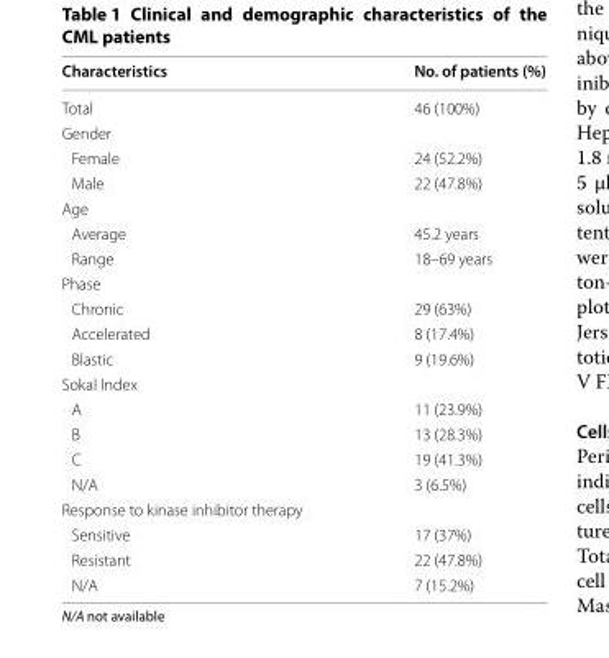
<table><thead><tr><td>Characteristics</td><td>No. of patients (%)</td></tr></thead><tbody><tr><td>Total</td><td>46 (100%)</td></tr><tr><td colspan="2">Gender</td></tr><tr><td>Female</td><td>24 (52.2%)</td></tr><tr><td>Male</td><td>22 (47.8%)</td></tr><tr><td colspan="2">Age</td></tr><tr><td>Average</td><td>45.2 years</td></tr><tr><td>Range</td><td>18–69 years</td></tr><tr><td colspan="2">Phase</td></tr><tr><td>Chronic</td><td>29 (63%)</td></tr><tr><td>Accelerated</td><td>8 (17.4%)</td></tr><tr><td>Blastic</td><td>9 (19.6%)</td></tr><tr><td colspan="2">Sokal Index</td></tr><tr><td>A</td><td>11 (23.9%)</td></tr><tr><td>B</td><td>13 (28.3%)</td></tr><tr><td>C</td><td>19 (41.3%)</td></tr><tr><td>N/A</td><td>3 (6.5%)</td></tr><tr><td colspan="2">Response to kinase inhibitor therapy</td></tr><tr><td>Sensitive</td><td>17 (37%)</td></tr><tr><td>Resistant</td><td>22 (47.8%)</td></tr><tr><td>N/A</td><td>7 (15.2%)</td></tr></tbody></table>